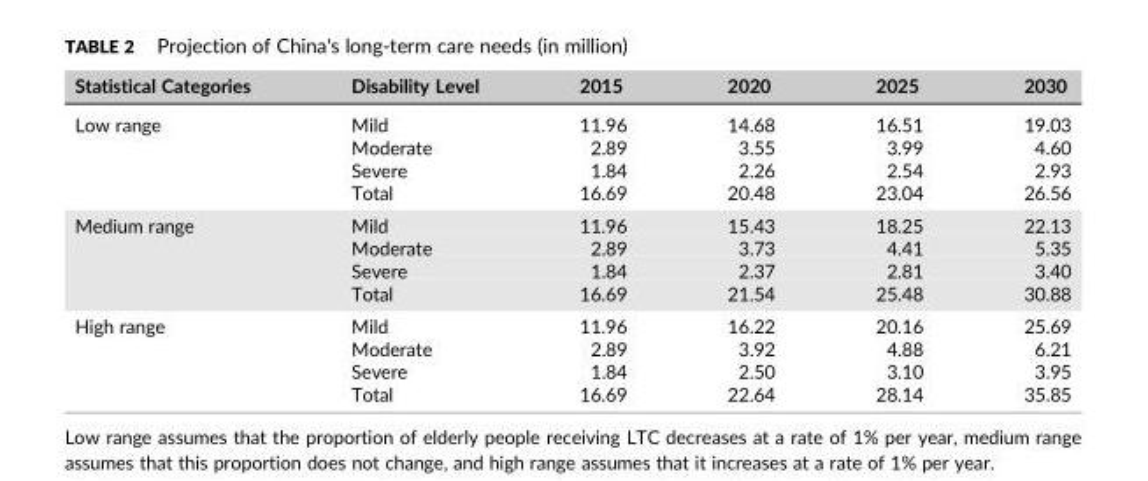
<table><thead><tr><td>Statistical Categories</td><td>Disability Level</td><td>2015</td><td>2020</td><td>2025</td><td>2030</td></tr></thead><tbody><tr><td rowspan="4">Low range</td><td>Mild</td><td>11.96</td><td>14.68</td><td>16.51</td><td>19.03</td></tr><tr><td>Moderate</td><td>2.89</td><td>3.55</td><td>3.99</td><td>4.60</td></tr><tr><td>Severe</td><td>1.84</td><td>2.26</td><td>2.54</td><td>2.93</td></tr><tr><td>Total</td><td>16.69</td><td>20.48</td><td>23.04</td><td>26.56</td></tr><tr><td rowspan="4">Medium range</td><td>Mild</td><td>11.96</td><td>15.43</td><td>18.25</td><td>22.13</td></tr><tr><td>Moderate</td><td>2.89</td><td>3.73</td><td>4.41</td><td>5.35</td></tr><tr><td>Severe</td><td>1.84</td><td>2.37</td><td>2.81</td><td>3.40</td></tr><tr><td>Total</td><td>16.69</td><td>21.54</td><td>25.48</td><td>30.88</td></tr><tr><td rowspan="4">High range</td><td>Mild</td><td>11.96</td><td>16.22</td><td>20.16</td><td>25.69</td></tr><tr><td>Moderate</td><td>2.89</td><td>3.92</td><td>4.88</td><td>6.21</td></tr><tr><td>Severe</td><td>1.84</td><td>2.50</td><td>3.10</td><td>3.95</td></tr><tr><td>Total</td><td>16.69</td><td>22.64</td><td>28.14</td><td>35.85</td></tr></tbody></table>